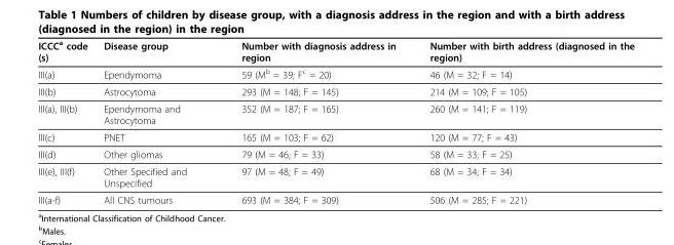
<table><thead><tr><td>ICCC<sup>a</sup> code (s)</td><td>Disease group</td><td>Number with diagnosis address in region</td><td>Number with birth address (diagnosed in the region)</td></tr></thead><tbody><tr><td>III(a)</td><td>Ependymoma</td><td>59 (M<sup>b</sup> = 39; F<sup>c</sup> = 20)</td><td>46 (M = 32; F = 14)</td></tr><tr><td>III(b)</td><td>Astrocytoma</td><td>293 (M = 148; F = 145)</td><td>214 (M = 109; F = 105)</td></tr><tr><td>III(a), III(b)</td><td>Ependymoma and Astrocytoma</td><td>352 (M = 187; F = 165)</td><td>260 (M = 141; F = 119)</td></tr><tr><td>III(c)</td><td>PNET</td><td>165 (M = 103; F = 62)</td><td>120 (M = 77; F = 43)</td></tr><tr><td>III(d)</td><td>Other gliomas</td><td>79 (M = 46; F = 33)</td><td>58 (M = 33; F = 25)</td></tr><tr><td>III(e), III(f)</td><td>Other Specified and Unspecified</td><td>97 (M = 48; F = 49)</td><td>68 (M = 34; F = 34)</td></tr><tr><td>III(a-f)</td><td>All CNS tumours</td><td>693 (M = 384; F = 309)</td><td>506 (M = 285; F = 221)</td></tr></tbody></table>